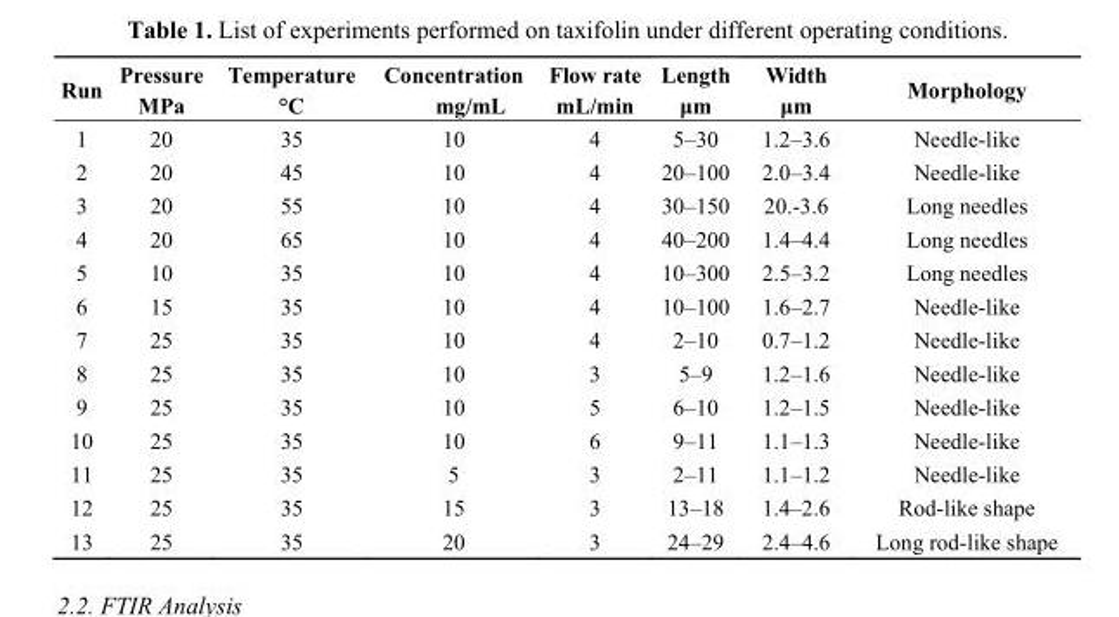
<table><thead><tr><td>Run</td><td>Pressure MPa</td><td>Temperature °C</td><td>Concentration mg/mL</td><td>Flow rate mL/min</td><td>Length μm</td><td>Width μm</td><td>Morphology</td></tr></thead><tbody><tr><td>1</td><td>20</td><td>35</td><td>10</td><td>4</td><td>5–30</td><td>1.2–3.6</td><td>Needle-like</td></tr><tr><td>2</td><td>20</td><td>45</td><td>10</td><td>4</td><td>20–100</td><td>2.0–3.4</td><td>Needle-like</td></tr><tr><td>3</td><td>20</td><td>55</td><td>10</td><td>4</td><td>30–150</td><td>20.-3.6</td><td>Long needles</td></tr><tr><td>4</td><td>20</td><td>65</td><td>10</td><td>4</td><td>40–200</td><td>1.4–4.4</td><td>Long needles</td></tr><tr><td>5</td><td>10</td><td>35</td><td>10</td><td>4</td><td>10–300</td><td>2.5–3.2</td><td>Long needles</td></tr><tr><td>6</td><td>15</td><td>35</td><td>10</td><td>4</td><td>10–100</td><td>1.6–2.7</td><td>Needle-like</td></tr><tr><td>7</td><td>25</td><td>35</td><td>10</td><td>4</td><td>2–10</td><td>0.7–1.2</td><td>Needle-like</td></tr><tr><td>8</td><td>25</td><td>35</td><td>10</td><td>3</td><td>5–9</td><td>1.2–1.6</td><td>Needle-like</td></tr><tr><td>9</td><td>25</td><td>35</td><td>10</td><td>5</td><td>6–10</td><td>1.2–1.5</td><td>Needle-like</td></tr><tr><td>10</td><td>25</td><td>35</td><td>10</td><td>6</td><td>9–11</td><td>1.1–1.3</td><td>Needle-like</td></tr><tr><td>11</td><td>25</td><td>35</td><td>5</td><td>3</td><td>2–11</td><td>1.1–1.2</td><td>Needle-like</td></tr><tr><td>12</td><td>25</td><td>35</td><td>15</td><td>3</td><td>13–18</td><td>1.4–2.6</td><td>Rod-like shape</td></tr><tr><td>13</td><td>25</td><td>35</td><td>20</td><td>3</td><td>24–29</td><td>2.4–4.6</td><td>Long rod-like shape</td></tr></tbody></table>